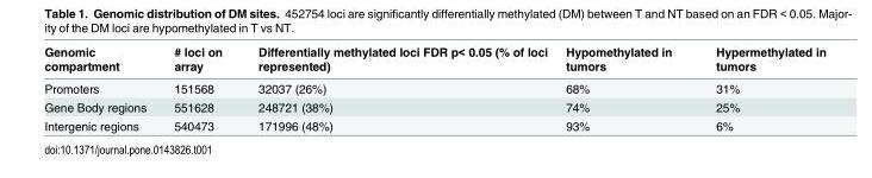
<table><thead><tr><td>Genomic compartment</td><td># loci on array</td><td>Differentially methylated loci FDR p&lt; 0.05 (% of loci represented)</td><td>Hypomethylated in tumors</td><td>Hypermethylated in tumors</td></tr></thead><tbody><tr><td>Promoters</td><td>151568</td><td>32037 (26%)</td><td>68%</td><td>31%</td></tr><tr><td>Gene Body regions</td><td>551628</td><td>248721 (38%)</td><td>74%</td><td>25%</td></tr><tr><td>Intergenic regions</td><td>540473</td><td>171996 (48%)</td><td>93%</td><td>6%</td></tr></tbody></table>